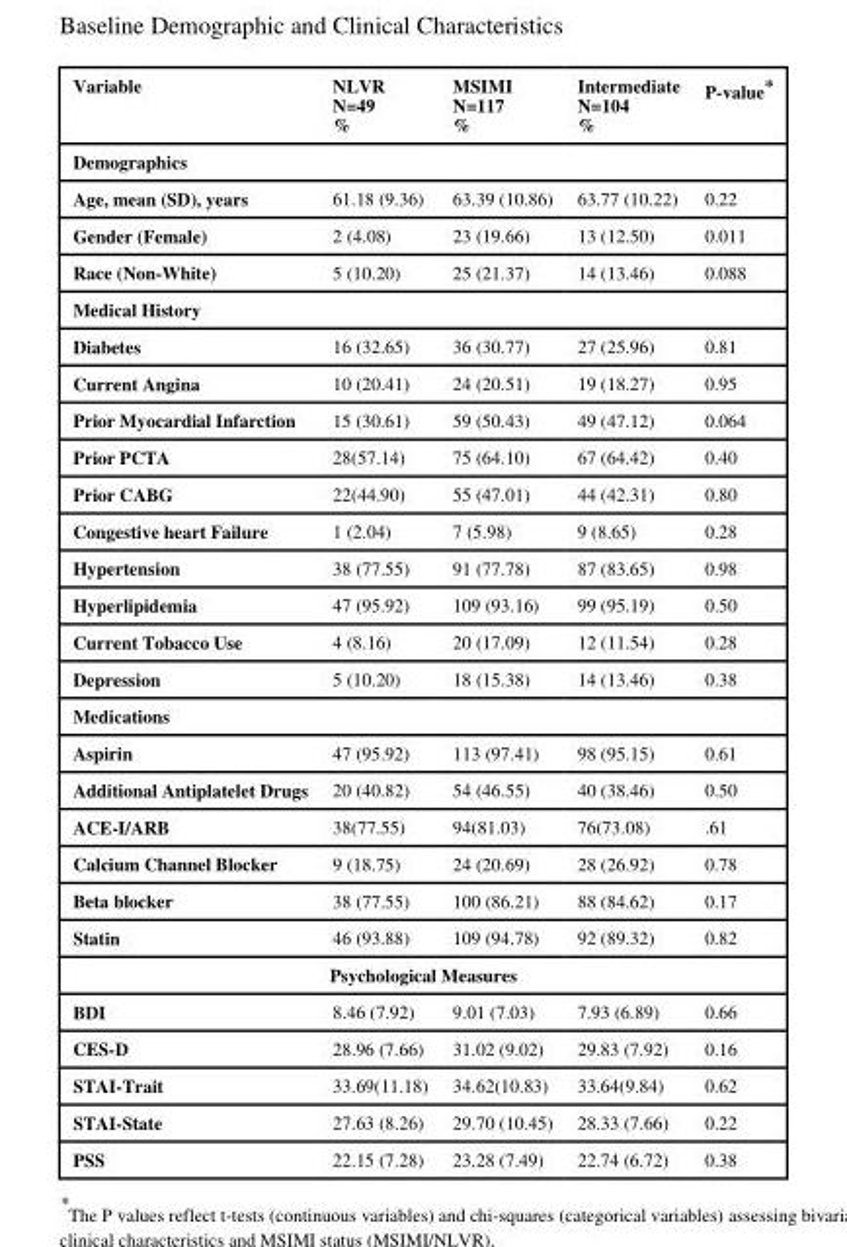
<table><thead><tr><td>Variable</td><td>NLVR N=49 %</td><td>MSIMI N=117 %</td><td>Intermediate N=104 %</td><td>P-value*</td></tr></thead><tbody><tr><td colspan="5">Demographics</td></tr><tr><td>Age, mean (SD), years</td><td>61.18 (9.36)</td><td>63.39 (10.86)</td><td>63.77 (10.22)</td><td>0.22</td></tr><tr><td>Gender (Female)</td><td>2 (4.08)</td><td>23 (19.66)</td><td>13 (12.50)</td><td>0.011</td></tr><tr><td>Race (Non-White)</td><td>5 (10.20)</td><td>25 (21.37)</td><td>14 (13.46)</td><td>0.088</td></tr><tr><td colspan="5">Medical History</td></tr><tr><td>Diabetes</td><td>16 (32.65)</td><td>36 (30.77)</td><td>27 (25.96)</td><td>0.81</td></tr><tr><td>Current Angina</td><td>10 (20.41)</td><td>24 (20.51)</td><td>19 (18.27)</td><td>0.95</td></tr><tr><td>Prior Myocardial Infarction</td><td>15 (30.61)</td><td>59 (50.43)</td><td>49 (47.12)</td><td>0.064</td></tr><tr><td>Prior PCTA</td><td>28(57.14)</td><td>75 (64.10)</td><td>67 (64.42)</td><td>0.40</td></tr><tr><td>Prior CABG</td><td>22(44.90)</td><td>55 (47.01)</td><td>44 (42.31)</td><td>0.80</td></tr><tr><td>Congestive heart Failure</td><td>1 (2.04)</td><td>7 (5.98)</td><td>9 (8.65)</td><td>0.28</td></tr><tr><td>Hypertension</td><td>38 (77.55)</td><td>91 (77.78)</td><td>87 (83.65)</td><td>0.98</td></tr><tr><td>Hyperlipidemia</td><td>47 (95.92)</td><td>109 (93.16)</td><td>99 (95.19)</td><td>0.50</td></tr><tr><td>Current Tobacco Use</td><td>4 (8.16)</td><td>20 (17.09)</td><td>12 (11.54)</td><td>0.28</td></tr><tr><td>Depression</td><td>5 (10.20)</td><td>18 (15.38)</td><td>14 (13.46)</td><td>0.38</td></tr><tr><td colspan="5">Medications</td></tr><tr><td>Aspirin</td><td>47 (95.92)</td><td>113 (97.41)</td><td>98 (95.15)</td><td>0.61</td></tr><tr><td>Additional Antiplatelet Drugs</td><td>20 (40.82)</td><td>54 (46.55)</td><td>40 (38.46)</td><td>0.50</td></tr><tr><td>ACE-I/ARB</td><td>38(77.55)</td><td>94(81.03)</td><td>76(73.08)</td><td>.61</td></tr><tr><td>Calcium Channel Blocker</td><td>9 (18.75)</td><td>24 (20.69)</td><td>28 (26.92)</td><td>0.78</td></tr><tr><td>Beta blocker</td><td>38 (77.55)</td><td>100 (86.21)</td><td>88 (84.62)</td><td>0.17</td></tr><tr><td>Statin</td><td>46 (93.88)</td><td>109 (94.78)</td><td>92 (89.32)</td><td>0.82</td></tr><tr><td colspan="5">Psychological Measures</td></tr><tr><td>BDI</td><td>8.46 (7.92)</td><td>9.01 (7.03)</td><td>7.93 (6.89)</td><td>0.66</td></tr><tr><td>CES-D</td><td>28.96 (7.66)</td><td>31.02 (9.02)</td><td>29.83 (7.92)</td><td>0.16</td></tr><tr><td>STAI-Trait</td><td>33.69(11.18)</td><td>34.62(10.83)</td><td>33.64(9.84)</td><td>0.62</td></tr><tr><td>STAI-State</td><td>27.63 (8.26)</td><td>29.70 (10.45)</td><td>28.33 (7.66)</td><td>0.22</td></tr><tr><td>PSS</td><td>22.15 (7.28)</td><td>23.28 (7.49)</td><td>22.74 (6.72)</td><td>0.38</td></tr></tbody></table>